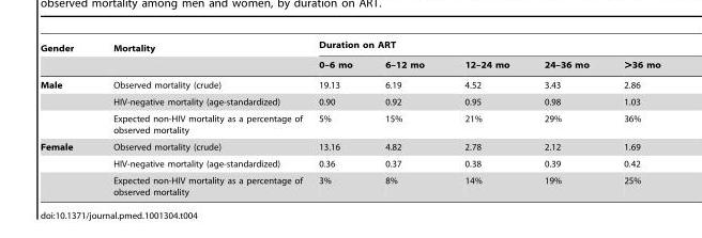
<table><thead><tr><td rowspan="2">Gender</td><td rowspan="2">Mortality</td><td colspan="5">Duration on ART</td></tr><tr><td>0–6 mo</td><td>6–12 mo</td><td>12–24 mo</td><td>24–36 mo</td><td>&gt;36 mo</td></tr></thead><tbody><tr><td rowspan="3">Male</td><td>Observed mortality (crude)</td><td>19.13</td><td>6.19</td><td>4.52</td><td>3.43</td><td>2.86</td></tr><tr><td>HIV-negative mortality (age-standardized)</td><td>0.90</td><td>0.92</td><td>0.95</td><td>0.98</td><td>1.03</td></tr><tr><td>Expected non-HIV mortality as a percentage of observed mortality</td><td>5%</td><td>15%</td><td>21%</td><td>29%</td><td>36%</td></tr><tr><td rowspan="3">Female</td><td>Observed mortality (crude)</td><td>13.16</td><td>4.82</td><td>2.78</td><td>2.12</td><td>1.69</td></tr><tr><td>HIV-negative mortality (age-standardized)</td><td>0.36</td><td>0.37</td><td>0.38</td><td>0.39</td><td>0.42</td></tr><tr><td>Expected non-HIV mortality as a percentage of observed mortality</td><td>3%</td><td>8%</td><td>14%</td><td>19%</td><td>25%</td></tr></tbody></table>